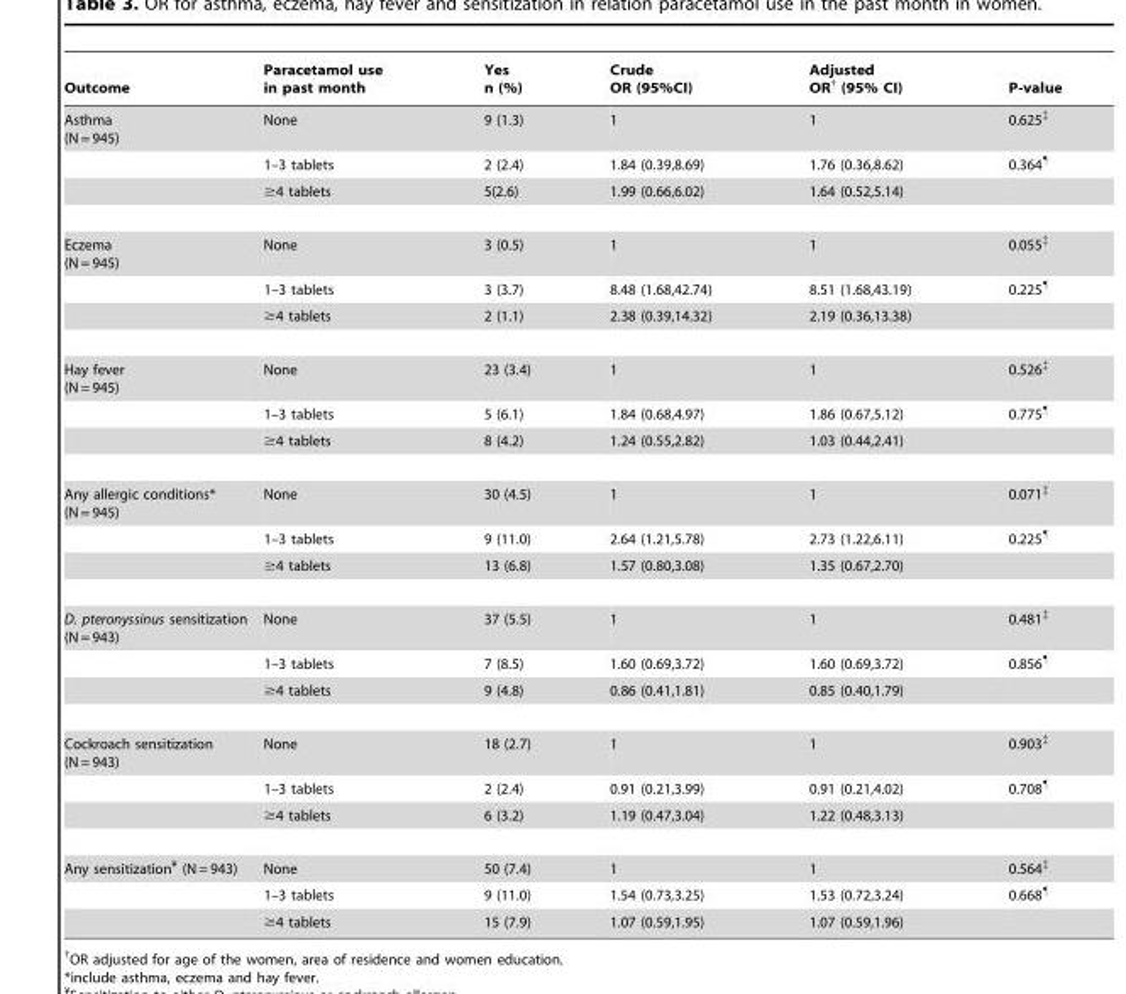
<table><thead><tr><td>Outcome</td><td>Paracetamol use in past month</td><td>Yes n (%)</td><td>Crude OR (95%CI)</td><td>Adjusted OR† (95% CI)</td><td>P-value</td></tr></thead><tbody><tr><td rowspan="3">Asthma (N = 945)</td><td>None</td><td>9 (1.3)</td><td>1</td><td>1</td><td>0.625‡</td></tr><tr><td>1–3 tablets</td><td>2 (2.4)</td><td>1.84 (0.39,8.69)</td><td>1.76 (0.36,8.62)</td><td>0.364¶</td></tr><tr><td>≥4 tablets</td><td>5(2.6)</td><td>1.99 (0.66,6.02)</td><td>1.64 (0.52,5.14)</td><td></td></tr><tr><td rowspan="3">Eczema (N = 945)</td><td>None</td><td>3 (0.5)</td><td>1</td><td>1</td><td>0.055‡</td></tr><tr><td>1–3 tablets</td><td>3 (3.7)</td><td>8.48 (1.68,42.74)</td><td>8.51 (1.68,43.19)</td><td>0.225¶</td></tr><tr><td>≥4 tablets</td><td>2 (1.1)</td><td>2.38 (0.39,14.32)</td><td>2.19 (0.36,13.38)</td><td></td></tr><tr><td rowspan="3">Hay fever (N = 945)</td><td>None</td><td>23 (3.4)</td><td>1</td><td>1</td><td>0.526‡</td></tr><tr><td>1–3 tablets</td><td>5 (6.1)</td><td>1.84 (0.68,4.97)</td><td>1.86 (0.67,5.12)</td><td>0.775¶</td></tr><tr><td>≥4 tablets</td><td>8 (4.2)</td><td>1.24 (0.55,2.82)</td><td>1.03 (0.44,2.41)</td><td></td></tr><tr><td rowspan="3">Any allergic conditions* (N = 945)</td><td>None</td><td>30 (4.5)</td><td>1</td><td>1</td><td>0.071‡</td></tr><tr><td>1–3 tablets</td><td>9 (11.0)</td><td>2.64 (1.21,5.78)</td><td>2.73 (1.22,6.11)</td><td>0.225¶</td></tr><tr><td>≥4 tablets</td><td>13 (6.8)</td><td>1.57 (0.80,3.08)</td><td>1.35 (0.67,2.70)</td><td></td></tr><tr><td rowspan="3">D. pteronyssinus sensitization (N = 943)</td><td>None</td><td>37 (5.5)</td><td>1</td><td>1</td><td>0.481‡</td></tr><tr><td>1–3 tablets</td><td>7 (8.5)</td><td>1.60 (0.69,3.72)</td><td>1.60 (0.69,3.72)</td><td>0.856¶</td></tr><tr><td>≥4 tablets</td><td>9 (4.8)</td><td>0.86 (0.41,1.81)</td><td>0.85 (0.40,1.79)</td><td></td></tr><tr><td rowspan="3">Cockroach sensitization (N = 943)</td><td>None</td><td>18 (2.7)</td><td>1</td><td>1</td><td>0.903‡</td></tr><tr><td>1–3 tablets</td><td>2 (2.4)</td><td>0.91 (0.21,3.99)</td><td>0.91 (0.21,4.02)</td><td>0.708¶</td></tr><tr><td>≥4 tablets</td><td>6 (3.2)</td><td>1.19 (0.47,3.04)</td><td>1.22 (0.48,3.13)</td><td></td></tr><tr><td rowspan="3">Any sensitization¥ (N = 943)</td><td>None</td><td>50 (7.4)</td><td>1</td><td>1</td><td>0.564‡</td></tr><tr><td>1–3 tablets</td><td>9 (11.0)</td><td>1.54 (0.73,3.25)</td><td>1.53 (0.72,3.24)</td><td>0.668¶</td></tr><tr><td>≥4 tablets</td><td>15 (7.9)</td><td>1.07 (0.59,1.95)</td><td>1.07 (0.59,1.96)</td><td></td></tr></tbody></table>